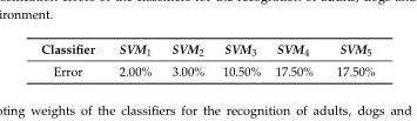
<table><thead><tr><td>Classifier</td><td>SVM<sub>1</sub></td><td>SVM<sub>2</sub></td><td>SVM<sub>3</sub></td><td>SVM<sub>4</sub></td><td>SVM<sub>5</sub></td></tr></thead><tbody><tr><td>Error</td><td>2.00%</td><td>3.00%</td><td>10.50%</td><td>17.50%</td><td>17.50%</td></tr></tbody></table>